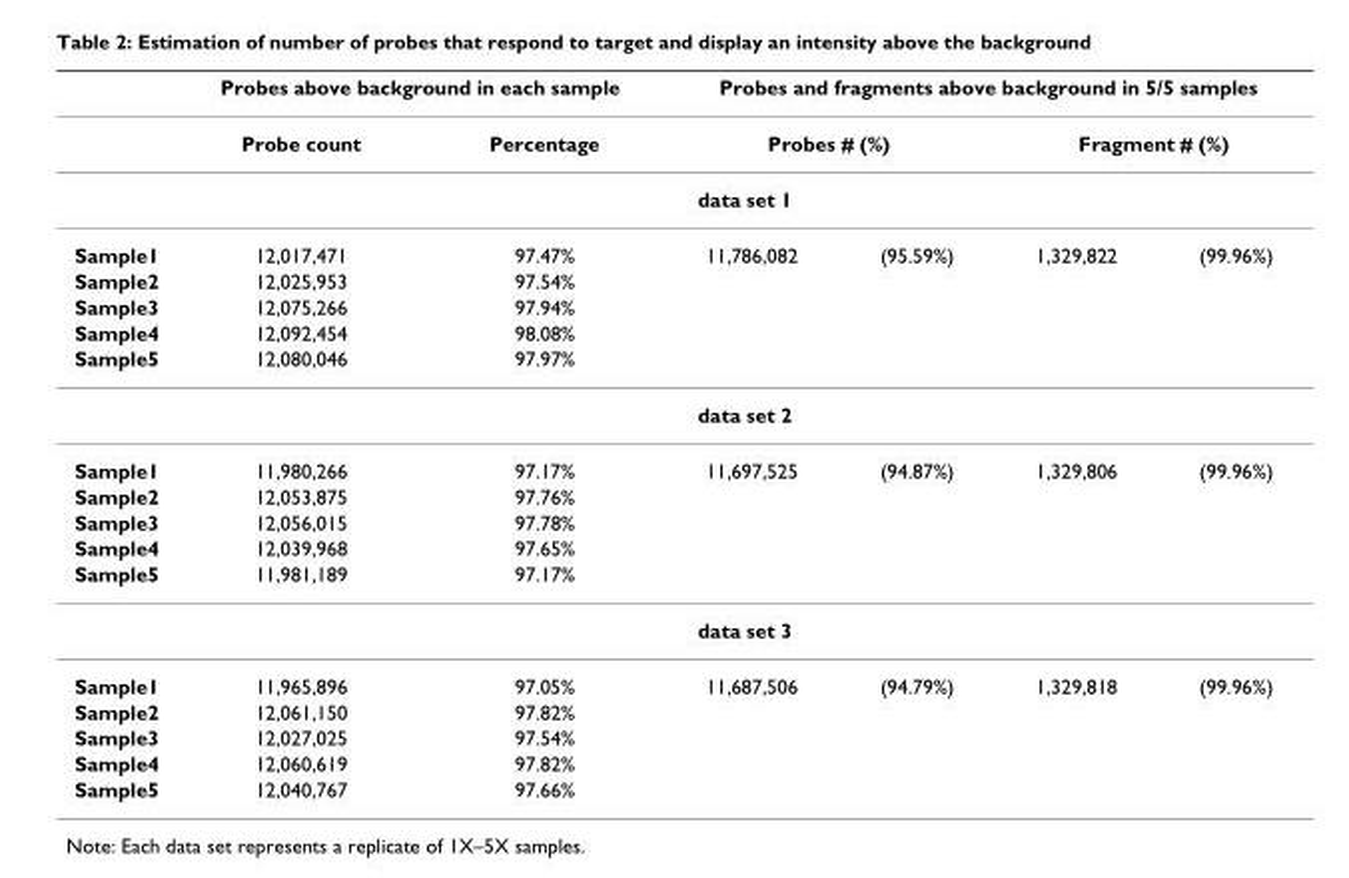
<table><thead><tr><td rowspan="4">Sample1</td><td colspan="2">Probes above background in each sample</td><td colspan="4">Probes and fragments above background in 5/5 samples</td></tr><tr><td>Probe count</td><td>Percentage</td><td colspan="2">Probes # (%)</td><td colspan="2">Fragment # (%)</td></tr><tr><td colspan="6">data set 1</td></tr><tr><td>12,017,471</td><td>97.47%</td><td>11,786,082</td><td>(95.59%)</td><td>1,329,822</td><td>(99.96%)</td></tr></thead><tbody><tr><td>Sample2</td><td>12,025,953</td><td>97.54%</td><td></td><td></td><td></td><td></td></tr><tr><td>Sample3</td><td>12,075,266</td><td>97.94%</td><td></td><td></td><td></td><td></td></tr><tr><td>Sample4</td><td>12,092,454</td><td>98.08%</td><td></td><td></td><td></td><td></td></tr><tr><td rowspan="2">Sample5</td><td>12,080,046</td><td>97.97%</td><td></td><td></td><td></td><td></td></tr><tr><td colspan="6">data set 2</td></tr><tr><td>Sample1</td><td>11,980,266</td><td>97.17%</td><td>11,697,525</td><td>(94.87%)</td><td>1,329,806</td><td>(99.96%)</td></tr><tr><td>Sample2</td><td>12,053,875</td><td>97.76%</td><td></td><td></td><td></td><td></td></tr><tr><td>Sample3</td><td>12,056,015</td><td>97.78%</td><td></td><td></td><td></td><td></td></tr><tr><td>Sample4</td><td>12,039,968</td><td>97.65%</td><td></td><td></td><td></td><td></td></tr><tr><td rowspan="2">Sample5</td><td>11,981,189</td><td>97.17%</td><td></td><td></td><td></td><td></td></tr><tr><td colspan="6">data set 3</td></tr><tr><td>Sample1</td><td>11,965,896</td><td>97.05%</td><td>11,687,506</td><td>(94.79%)</td><td>1,329,818</td><td>(99.96%)</td></tr><tr><td>Sample2</td><td>12,061,150</td><td>97.82%</td><td></td><td></td><td></td><td></td></tr><tr><td>Sample3</td><td>12,027,025</td><td>97.54%</td><td></td><td></td><td></td><td></td></tr><tr><td>Sample4</td><td>12,060,619</td><td>97.82%</td><td></td><td></td><td></td><td></td></tr><tr><td>Sample5</td><td>12,040,767</td><td>97.66%</td><td></td><td></td><td></td><td></td></tr></tbody></table>